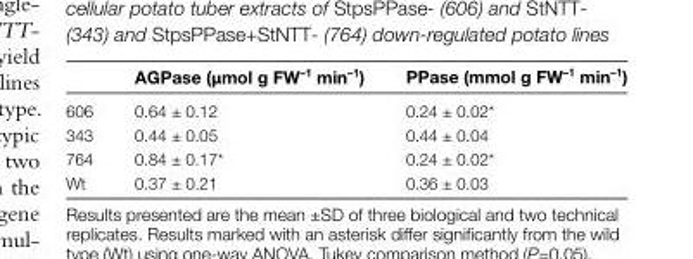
<table><thead><tr><td></td><td>AGPase (µmol g FW<sup>–1</sup> min<sup>–1</sup>)</td><td>PPase (mmol g FW<sup>–1</sup> min<sup>–1</sup>)</td></tr></thead><tbody><tr><td>606</td><td>0.64 ± 0.12</td><td>0.24 ± 0.02*</td></tr><tr><td>343</td><td>0.44 ± 0.05</td><td>0.44 ± 0.04</td></tr><tr><td>764</td><td>0.84 ± 0.17*</td><td>0.24 ± 0.02*</td></tr><tr><td>Wt</td><td>0.37 ± 0.21</td><td>0.36 ± 0.03</td></tr></tbody></table>